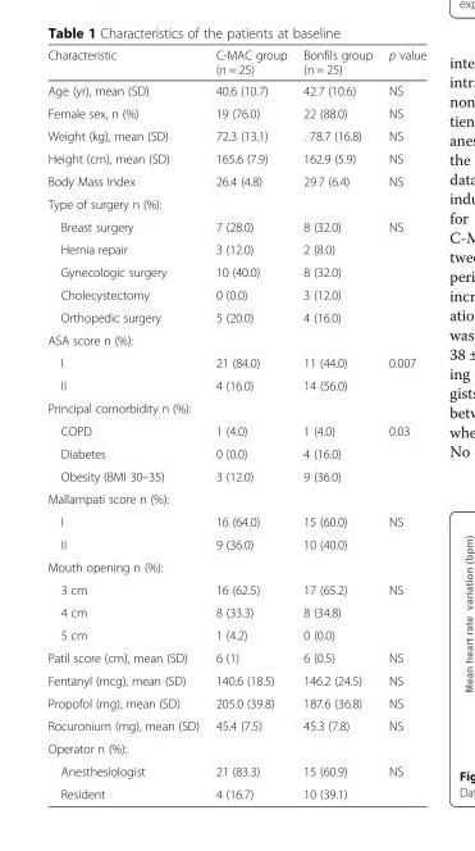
<table><thead><tr><td>Characteristic</td><td>C-MAC group (n = 25)</td><td>Bonfils group (n = 25)</td><td>p value</td></tr></thead><tbody><tr><td>Age (yr), mean (SD)</td><td>40.6 (10.7)</td><td>42.7 (10.6)</td><td>NS</td></tr><tr><td>Female sex, n (%)</td><td>19 (76.0)</td><td>22 (88.0)</td><td>NS</td></tr><tr><td>Weight (kg), mean (SD)</td><td>72.3 (13.1)</td><td>. 78.7 (16.8)</td><td>NS</td></tr><tr><td>Height (cm), mean (SD)</td><td>165.6 (7.9)</td><td>162.9 (5.9)</td><td>NS</td></tr><tr><td>Body Mass Index</td><td>26.4 (4.8)</td><td>29.7 (6.4)</td><td>NS</td></tr><tr><td colspan="4">Type of surgery n (%):</td></tr><tr><td>Breast surgery</td><td>7 (28.0)</td><td>8 (32.0)</td><td rowspan="5">NS</td></tr><tr><td>Hernia repair</td><td>3 (12.0)</td><td>2 (8.0)</td></tr><tr><td>Gynecologic surgery</td><td>10 (40.0)</td><td>8 (32.0)</td></tr><tr><td>Cholecystectomy</td><td>0 (0.0)</td><td>3 (12.0)</td></tr><tr><td>Orthopedic surgery</td><td>5 (20.0)</td><td>4 (16.0)</td></tr><tr><td colspan="4">ASA score n (%):</td></tr><tr><td>I</td><td>21 (84.0)</td><td>11 (44.0)</td><td rowspan="2">0.007</td></tr><tr><td>II</td><td>4 (16.0)</td><td>14 (56.0)</td></tr><tr><td colspan="4">Principal comorbidity n (%):</td></tr><tr><td>COPD</td><td>1 (4.0)</td><td>1 (4.0)</td><td rowspan="3">0.03</td></tr><tr><td>Diabetes</td><td>0 (0.0)</td><td>4 (16.0)</td></tr><tr><td>Obesity (BMI 30–35)</td><td>3 (12.0)</td><td>9 (36.0)</td></tr><tr><td colspan="4">Mallampati score n (%):</td></tr><tr><td>I</td><td>16 (64.0)</td><td>15 (60.0)</td><td rowspan="2">NS</td></tr><tr><td>II</td><td>9 (36.0)</td><td>10 (40.0)</td></tr><tr><td colspan="4">Mouth opening n (%):</td></tr><tr><td>3 cm</td><td>16 (62.5)</td><td>17 (65.2)</td><td rowspan="3">NS</td></tr><tr><td>4 cm</td><td>8 (33.3)</td><td>8 (34.8)</td></tr><tr><td>5 cm</td><td>1 (4.2)</td><td>0 (0.0)</td></tr><tr><td>Patil score (cm), mean (SD)</td><td>6 (1)</td><td>6 (0.5)</td><td>NS</td></tr><tr><td>Fentanyl (mcg), mean (SD)</td><td>140.6 (18.5)</td><td>146.2 (24.5)</td><td>NS</td></tr><tr><td>Propofol (mg), mean (SD)</td><td>205.0 (39.8)</td><td>187.6 (36.8)</td><td>NS</td></tr><tr><td>Rocuronium (mg), mean (SD)</td><td>45.4 (7.5)</td><td>45.3 (7.8)</td><td>NS</td></tr><tr><td colspan="4">Operator n (%):</td></tr><tr><td>Anesthesiologist</td><td>21 (83.3)</td><td>15 (60.9)</td><td rowspan="2">NS</td></tr><tr><td>Resident</td><td>4 (16.7)</td><td>10 (39.1)</td></tr></tbody></table>